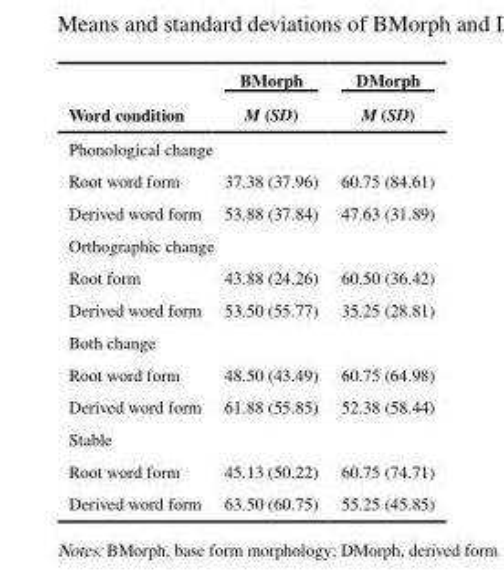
<table><thead><tr><td rowspan="2">Word condition</td><td rowspan="2">BMorph M (SD)</td><td rowspan="2">DMorph M (SD)</td></tr><tr></tr></thead><tbody><tr><td colspan="3">Phonological change</td></tr><tr><td>Root word form</td><td>37.38 (37.96)</td><td>60.75 (84.61)</td></tr><tr><td>Derived word form</td><td>53.88 (37.84)</td><td>47.63 (31.89)</td></tr><tr><td colspan="3">Orthographic change</td></tr><tr><td>Root form</td><td>43.88 (24.26)</td><td>60.50 (36.42)</td></tr><tr><td>Derived word form</td><td>53.50 (55.77)</td><td>35.25 (28.81)</td></tr><tr><td colspan="3">Both change</td></tr><tr><td>Root word form</td><td>48.50 (43.49)</td><td>60.75 (64.98)</td></tr><tr><td>Derived word form</td><td>61.88 (55.85)</td><td>52.38 (58.44)</td></tr><tr><td colspan="3">Stable</td></tr><tr><td>Root word form</td><td>45.13 (50.22)</td><td>60.75 (74.71)</td></tr><tr><td>Derived word form</td><td>63.50 (60.75)</td><td>55.25 (45.85)</td></tr></tbody></table>